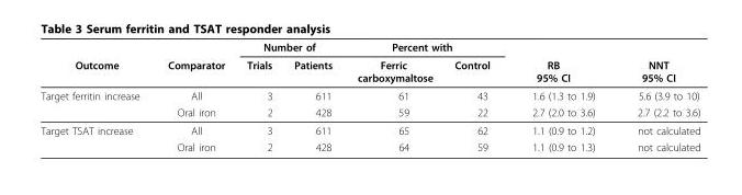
<table><thead><tr><td rowspan="2">Outcome</td><td rowspan="2">Comparator</td><td colspan="2">Number of</td><td colspan="2">Percent with</td><td rowspan="2">RB 95% CI</td><td rowspan="2">NNT 95% CI</td></tr><tr><td>Trials</td><td>Patients</td><td>Ferric carboxymaltose</td><td>Control</td></tr></thead><tbody><tr><td rowspan="2">Target ferritin increase</td><td>All</td><td>3</td><td>611</td><td>61</td><td>43</td><td>1.6 (1.3 to 1.9)</td><td>5.6 (3.9 to 10)</td></tr><tr><td>Oral iron</td><td>2</td><td>428</td><td>59</td><td>22</td><td>2.7 (2.0 to 3.6)</td><td>2.7 (2.2 to 3.6)</td></tr><tr><td rowspan="2">Target TSAT increase</td><td>All</td><td>3</td><td>611</td><td>65</td><td>62</td><td>1.1 (0.9 to 1.2)</td><td>not calculated</td></tr><tr><td>Oral iron</td><td>2</td><td>428</td><td>64</td><td>59</td><td>1.1 (0.9 to 1.3)</td><td>not calculated</td></tr></tbody></table>